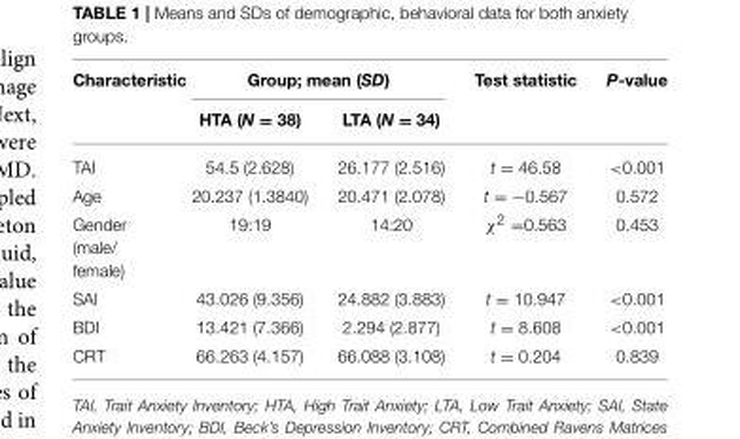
<table><thead><tr><td rowspan="2">Characteristic</td><td colspan="2">Group; mean (SD)</td><td rowspan="2">Test statistic</td><td rowspan="2">P-value</td></tr><tr><td>HTA (N = 38)</td><td>LTA (N = 34)</td></tr></thead><tbody><tr><td>TAI</td><td>54.5 (2.628)</td><td>26.177 (2.516)</td><td>t = 46.58</td><td>&lt;0.001</td></tr><tr><td>Age</td><td>20.237 (1.3840)</td><td>20.471 (2.078)</td><td>t = −0.567</td><td>0.572</td></tr><tr><td>Gender (male/ female)</td><td>19:19</td><td>14:20</td><td>χ<sup>2</sup> =0.563</td><td>0.453</td></tr><tr><td>SAI</td><td>43.026 (9.356)</td><td>24.882 (3.883)</td><td>t = 10.947</td><td>&lt;0.001</td></tr><tr><td>BDI</td><td>13.421 (7.366)</td><td>2.294 (2.877)</td><td>t = 8.608</td><td>&lt;0.001</td></tr><tr><td>CRT</td><td>66.263 (4.157)</td><td>66.088 (3.108)</td><td>t = 0.204</td><td>0.839</td></tr></tbody></table>